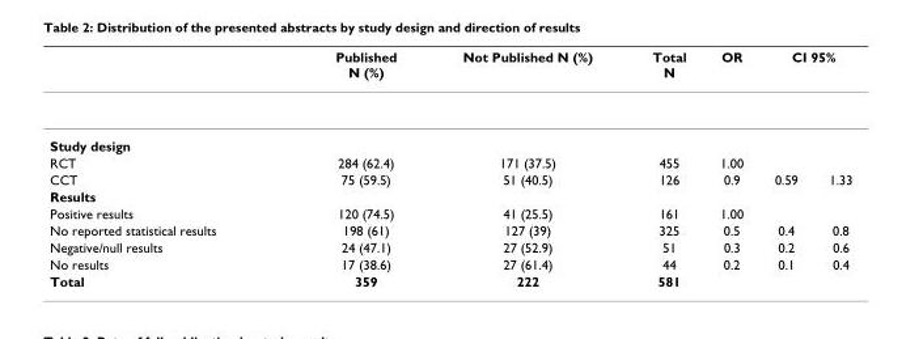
<table><thead><tr><td rowspan="2">Study design</td><td rowspan="2">Published N (%)</td><td rowspan="2">Not Published N (%)</td><td rowspan="2">Total N</td><td rowspan="2">OR</td><td colspan="2">CI 95%</td></tr><tr><td></td><td></td></tr></thead><tbody><tr><td>RCT</td><td>284 (62.4)</td><td>171 (37.5)</td><td>455</td><td>1.00</td><td></td><td></td></tr><tr><td>CCT</td><td>75 (59.5)</td><td>51 (40.5)</td><td>126</td><td>0.9</td><td>0.59</td><td>1.33</td></tr><tr><td colspan="7">Results</td></tr><tr><td>Positive results</td><td>120 (74.5)</td><td>41 (25.5)</td><td>161</td><td>1.00</td><td></td><td></td></tr><tr><td>No reported statistical results</td><td>198 (61)</td><td>127 (39)</td><td>325</td><td>0.5</td><td>0.4</td><td>0.8</td></tr><tr><td>Negative/null results</td><td>24 (47.1)</td><td>27 (52.9)</td><td>51</td><td>0.3</td><td>0.2</td><td>0.6</td></tr><tr><td>No results</td><td>17 (38.6)</td><td>27 (61.4)</td><td>44</td><td>0.2</td><td>0.1</td><td>0.4</td></tr><tr><td>Total</td><td>359</td><td>222</td><td>581</td><td></td><td></td><td></td></tr></tbody></table>